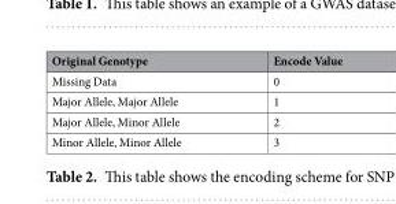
<table><thead><tr><td>Original Genotype</td><td>Encode Value</td></tr></thead><tbody><tr><td>Missing Data</td><td>0</td></tr><tr><td>Major Allele, Major Allele</td><td>1</td></tr><tr><td>Major Allele, Minor Allele</td><td>2</td></tr><tr><td>Minor Allele, Minor Allele</td><td>3</td></tr></tbody></table>